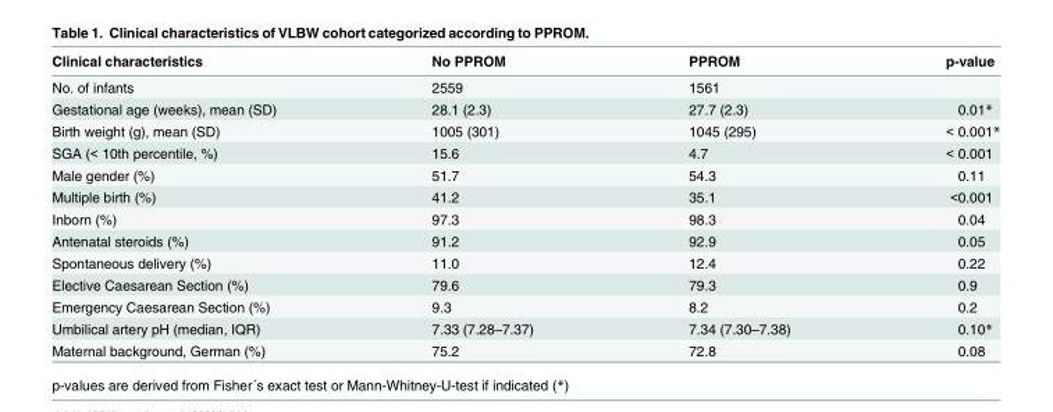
<table><thead><tr><td>Clinical characteristics</td><td>No PPROM</td><td>PPROM</td><td>p-value</td></tr></thead><tbody><tr><td>No. of infants</td><td>2559</td><td>1561</td><td></td></tr><tr><td>Gestational age (weeks), mean (SD)</td><td>28.1 (2.3)</td><td>27.7 (2.3)</td><td>0.01*</td></tr><tr><td>Birth weight (g), mean (SD)</td><td>1005 (301)</td><td>1045 (295)</td><td>&lt; 0.001*</td></tr><tr><td>SGA (&lt; 10th percentile, %)</td><td>15.6</td><td>4.7</td><td>&lt; 0.001</td></tr><tr><td>Male gender (%)</td><td>51.7</td><td>54.3</td><td>0.11</td></tr><tr><td>Multiple birth (%)</td><td>41.2</td><td>35.1</td><td>&lt;0.001</td></tr><tr><td>Inborn (%)</td><td>97.3</td><td>98.3</td><td>0.04</td></tr><tr><td>Antenatal steroids (%)</td><td>91.2</td><td>92.9</td><td>0.05</td></tr><tr><td>Spontaneous delivery (%)</td><td>11.0</td><td>12.4</td><td>0.22</td></tr><tr><td>Elective Caesarean Section (%)</td><td>79.6</td><td>79.3</td><td>0.9</td></tr><tr><td>Emergency Caesarean Section (%)</td><td>9.3</td><td>8.2</td><td>0.2</td></tr><tr><td>Umbilical artery pH (median, IQR)</td><td>7.33 (7.28–7.37)</td><td>7.34 (7.30–7.38)</td><td>0.10*</td></tr><tr><td>Maternal background, German (%)</td><td>75.2</td><td>72.8</td><td>0.08</td></tr></tbody></table>